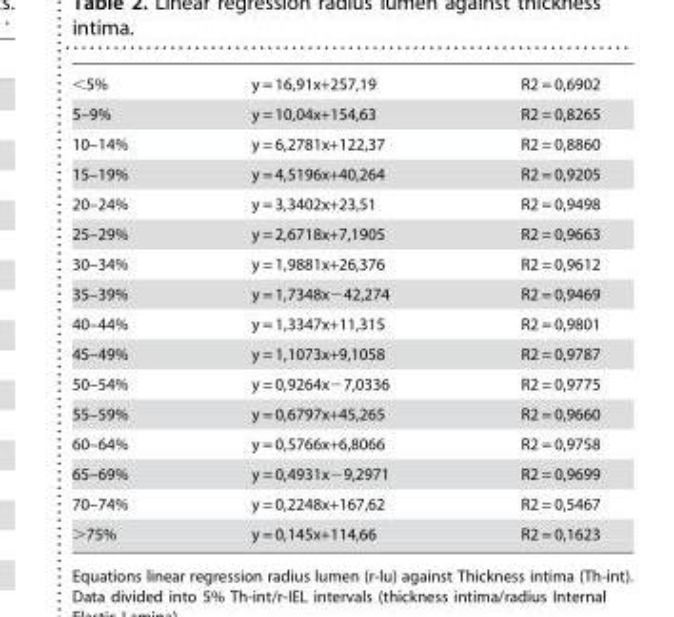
<table><tbody><tr><td>&lt;5%</td><td>y = 16,91x+257,19</td><td>R2 = 0,6902</td></tr><tr><td>5–9%</td><td>y = 10,04x+154,63</td><td>R2 = 0,8265</td></tr><tr><td>10–14%</td><td>y = 6,2781x+122,37</td><td>R2 = 0,8860</td></tr><tr><td>15–19%</td><td>y = 4,5196x+40,264</td><td>R2 = 0,9205</td></tr><tr><td>20–24%</td><td>y = 3,3402x+23,51</td><td>R2 = 0,9498</td></tr><tr><td>25–29%</td><td>y = 2,6718x+7,1905</td><td>R2 = 0,9663</td></tr><tr><td>30–34%</td><td>y = 1,9881x+26,376</td><td>R2 = 0,9612</td></tr><tr><td>35–39%</td><td>y = 1,7348x−42,274</td><td>R2 = 0,9469</td></tr><tr><td>40–44%</td><td>y = 1,3347x+11,315</td><td>R2 = 0,9801</td></tr><tr><td>45–49%</td><td>y = 1,1073x+9,1058</td><td>R2 = 0,9787</td></tr><tr><td>50–54%</td><td>y = 0,9264x−7,0336</td><td>R2 = 0,9775</td></tr><tr><td>55–59%</td><td>y = 0,6797x+45,265</td><td>R2 = 0,9660</td></tr><tr><td>60–64%</td><td>y = 0,5766x+6,8066</td><td>R2 = 0,9758</td></tr><tr><td>65–69%</td><td>y = 0,4931x−9,2971</td><td>R2 = 0,9699</td></tr><tr><td>70–74%</td><td>y = 0,2248x+167,62</td><td>R2 = 0,5467</td></tr><tr><td>&gt;75%</td><td>y = 0,145x+114,66</td><td>R2 = 0,1623</td></tr></tbody></table>